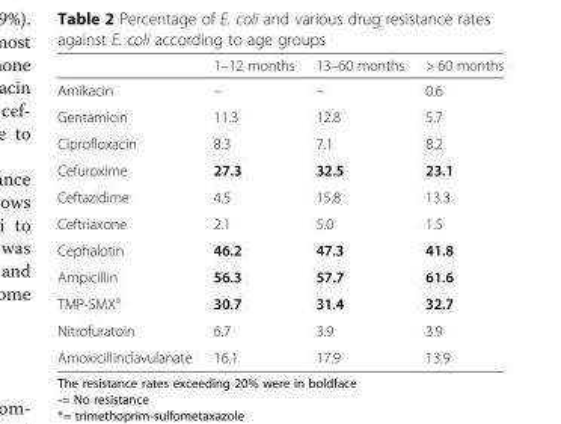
<table><thead><tr><td></td><td>1–12 months</td><td>13–60 months</td><td>&gt; 60 months</td></tr></thead><tbody><tr><td>Amikacin</td><td>–</td><td>–</td><td>0.6</td></tr><tr><td>Gentamicin</td><td>11.3</td><td>12.8</td><td>5.7</td></tr><tr><td>Ciprofloxacin</td><td>8.3</td><td>7.1</td><td>8.2</td></tr><tr><td>Cefuroxime</td><td>27.3</td><td>32.5</td><td>23.1</td></tr><tr><td>Ceftazidime</td><td>4.5</td><td>15.8</td><td>13.3</td></tr><tr><td>Ceftriaxone</td><td>2.1</td><td>5.0</td><td>1.5</td></tr><tr><td>Cephalotin</td><td>46.2</td><td>47.3</td><td>41.8</td></tr><tr><td>Ampicillin</td><td>56.3</td><td>57.7</td><td>61.6</td></tr><tr><td>TMP-SMX<sup>a</sup></td><td>30.7</td><td>31.4</td><td>32.7</td></tr><tr><td>Nitrofuratoin</td><td>6.7</td><td>3.9</td><td>3.9</td></tr><tr><td>Amoxicillinclavulanate</td><td>16.1</td><td>17.9</td><td>13.9</td></tr></tbody></table>